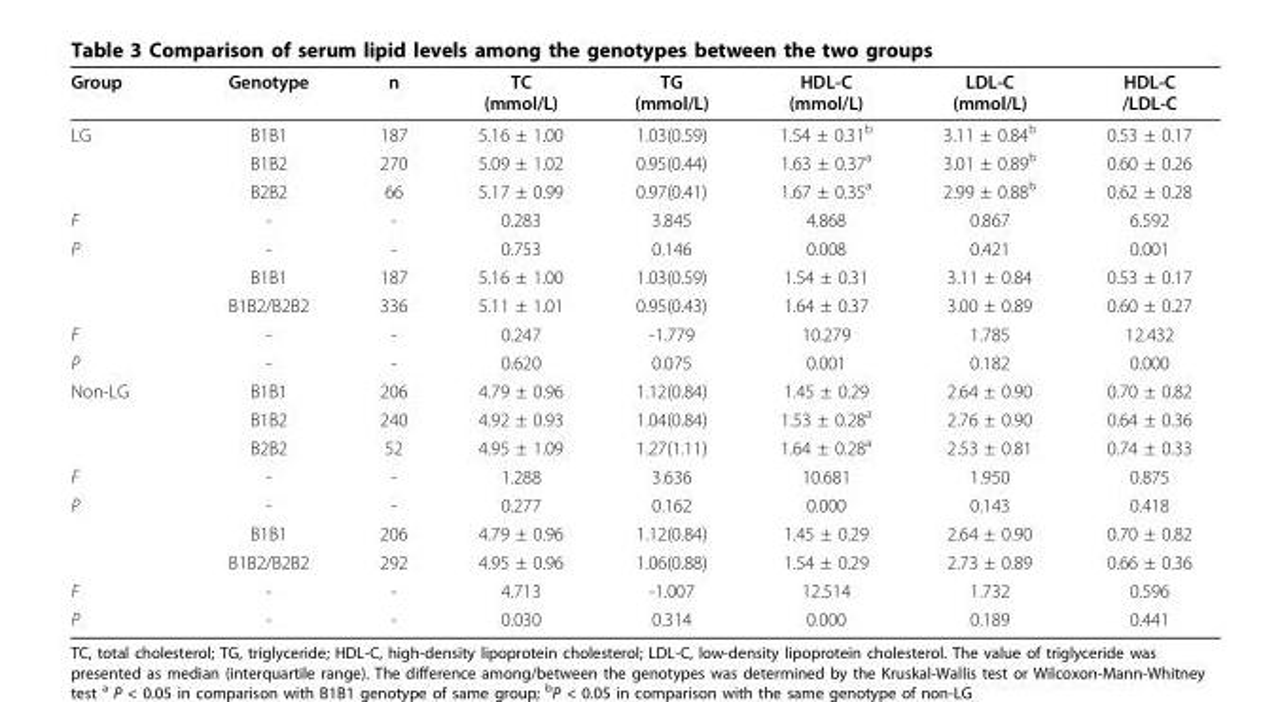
<table><thead><tr><td>Group</td><td>Genotype</td><td>n</td><td>TC (mmol/L)</td><td>TG (mmol/L)</td><td>HDL-C (mmol/L)</td><td>LDL-C (mmol/L)</td><td>HDL-C /LDL-C</td></tr></thead><tbody><tr><td rowspan="3">LG</td><td>B1B1</td><td>187</td><td>5.16 ± 1.00</td><td>1.03(0.59)</td><td>1.54 ± 0.31<sup>b</sup></td><td>3.11 ± 0.84<sup>b</sup></td><td>0.53 ± 0.17</td></tr><tr><td>B1B2</td><td>270</td><td>5.09 ± 1.02</td><td>0.95(0.44)</td><td>1.63 ± 0.37<sup>a</sup></td><td>3.01 ± 0.89<sup>b</sup></td><td>0.60 ± 0.26</td></tr><tr><td>B2B2</td><td>66</td><td>5.17 ± 0.99</td><td>0.97(0.41)</td><td>1.67 ± 0.35<sup>a</sup></td><td>2.99 ± 0.88<sup>b</sup></td><td>0.62 ± 0.28</td></tr><tr><td>F</td><td>-</td><td>-</td><td>0.283</td><td>3.845</td><td>4.868</td><td>0.867</td><td>6.592</td></tr><tr><td rowspan="3">P</td><td>-</td><td>-</td><td>0.753</td><td>0.146</td><td>0.008</td><td>0.421</td><td>0.001</td></tr><tr><td>B1B1</td><td>187</td><td>5.16 ± 1.00</td><td>1.03(0.59)</td><td>1.54 ± 0.31</td><td>3.11 ± 0.84</td><td>0.53 ± 0.17</td></tr><tr><td>B1B2/B2B2</td><td>336</td><td>5.11 ± 1.01</td><td>0.95(0.43)</td><td>1.64 ± 0.37</td><td>3.00 ± 0.89</td><td>0.60 ± 0.27</td></tr><tr><td>F</td><td>-</td><td>-</td><td>0.247</td><td>-1.779</td><td>10.279</td><td>1.785</td><td>12.432</td></tr><tr><td>P</td><td>-</td><td>-</td><td>0.620</td><td>0.075</td><td>0.001</td><td>0.182</td><td>0.000</td></tr><tr><td rowspan="3">Non-LG</td><td>B1B1</td><td>206</td><td>4.79 ± 0.96</td><td>1.12(0.84)</td><td>1.45 ± 0.29</td><td>2.64 ± 0.90</td><td>0.70 ± 0.82</td></tr><tr><td>B1B2</td><td>240</td><td>4.92 ± 0.93</td><td>1.04(0.84)</td><td>1.53 ± 0.28<sup>a</sup></td><td>2.76 ± 0.90</td><td>0.64 ± 0.36</td></tr><tr><td>B2B2</td><td>52</td><td>4.95 ± 1.09</td><td>1.27(1.11)</td><td>1.64 ± 0.28<sup>a</sup></td><td>2.53 ± 0.81</td><td>0.74 ± 0.33</td></tr><tr><td>F</td><td>-</td><td>-</td><td>1.288</td><td>3.636</td><td>10.681</td><td>1.950</td><td>0.875</td></tr><tr><td rowspan="3">P</td><td>-</td><td>-</td><td>0.277</td><td>0.162</td><td>0.000</td><td>0.143</td><td>0.418</td></tr><tr><td>B1B1</td><td>206</td><td>4.79 ± 0.96</td><td>1.12(0.84)</td><td>1.45 ± 0.29</td><td>2.64 ± 0.90</td><td>0.70 ± 0.82</td></tr><tr><td>B1B2/B2B2</td><td>292</td><td>4.95 ± 0.96</td><td>1.06(0.88)</td><td>1.54 ± 0.29</td><td>2.73 ± 0.89</td><td>0.66 ± 0.36</td></tr><tr><td>F</td><td>-</td><td>-</td><td>4.713</td><td>-1.007</td><td>12.514</td><td>1.732</td><td>0.596</td></tr><tr><td>P</td><td>-</td><td>-</td><td>0.030</td><td>0.314</td><td>0.000</td><td>0.189</td><td>0.441</td></tr></tbody></table>